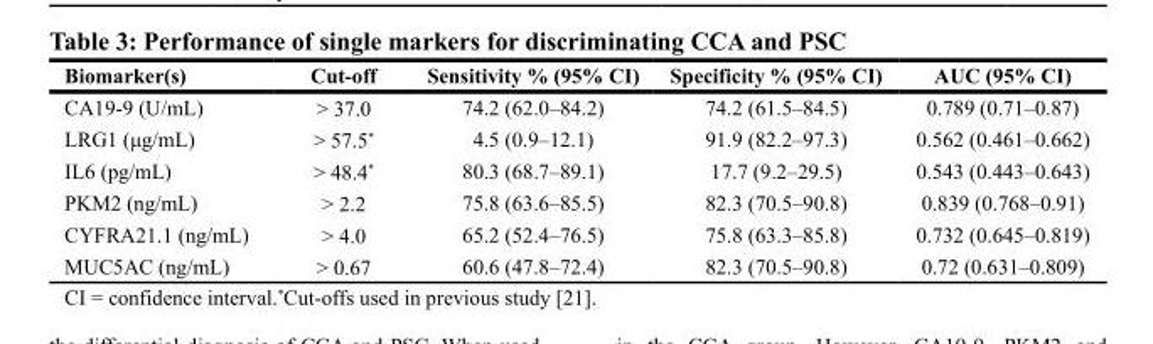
<table><thead><tr><td>Biomarker(s)</td><td>Cut-off</td><td>Sensitivity % (95% CI)</td><td>Specificity % (95% CI)</td><td>AUC (95% CI)</td></tr></thead><tbody><tr><td>CA19-9 (U/mL)</td><td>&gt; 37.0</td><td>74.2 (62.0–84.2)</td><td>74.2 (61.5–84.5)</td><td>0.789 (0.71–0.87)</td></tr><tr><td>LRG1 (μg/mL)</td><td>&gt; 57.5*</td><td>4.5 (0.9–12.1)</td><td>91.9 (82.2–97.3)</td><td>0.562 (0.461–0.662)</td></tr><tr><td>IL6 (pg/mL)</td><td>&gt; 48.4*</td><td>80.3 (68.7–89.1)</td><td>17.7 (9.2–29.5)</td><td>0.543 (0.443–0.643)</td></tr><tr><td>PKM2 (ng/mL)</td><td>&gt; 2.2</td><td>75.8 (63.6–85.5)</td><td>82.3 (70.5–90.8)</td><td>0.839 (0.768–0.91)</td></tr><tr><td>CYFRA21.1 (ng/mL)</td><td>&gt; 4.0</td><td>65.2 (52.4–76.5)</td><td>75.8 (63.3–85.8)</td><td>0.732 (0.645–0.819)</td></tr><tr><td>MUC5AC (ng/mL)</td><td>&gt; 0.67</td><td>60.6 (47.8–72.4)</td><td>82.3 (70.5–90.8)</td><td>0.72 (0.631–0.809)</td></tr></tbody></table>